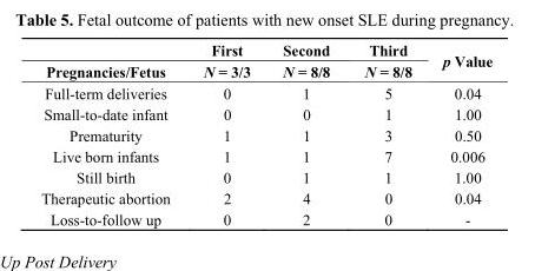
<table><thead><tr><td rowspan="2">Pregnancies/Fetus</td><td rowspan="2">First N = 3/3</td><td rowspan="2">Second N = 8/8</td><td rowspan="2">Third N = 8/8</td><td rowspan="2">p Value</td></tr><tr></tr></thead><tbody><tr><td>Full-term deliveries</td><td>0</td><td>1</td><td>5</td><td>0.04</td></tr><tr><td>Small-to-date infant</td><td>0</td><td>0</td><td>1</td><td>1.00</td></tr><tr><td>Prematurity</td><td>1</td><td>1</td><td>3</td><td>0.50</td></tr><tr><td>Live born infants</td><td>1</td><td>1</td><td>7</td><td>0.006</td></tr><tr><td>Still birth</td><td>0</td><td>1</td><td>1</td><td>1.00</td></tr><tr><td>Therapeutic abortion</td><td>2</td><td>4</td><td>0</td><td>0.04</td></tr><tr><td>Loss-to-follow up</td><td>0</td><td>2</td><td>0</td><td>-</td></tr></tbody></table>